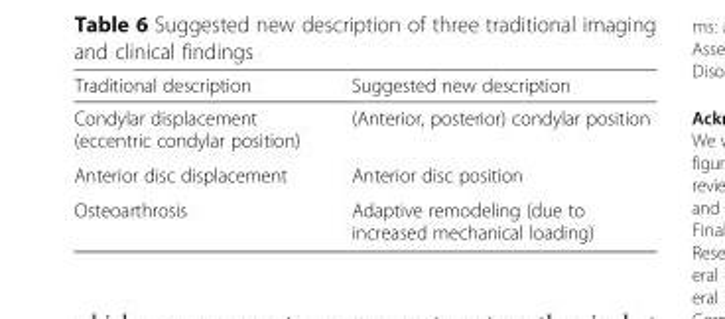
<table><thead><tr><td>Traditional description</td><td>Suggested new description</td></tr></thead><tbody><tr><td>Condylar displacement (eccentric condylar position)</td><td>(Anterior, posterior) condylar position</td></tr><tr><td>Anterior disc displacement</td><td>Anterior disc position</td></tr><tr><td>Osteoarthrosis</td><td>Adaptive remodeling (due to increased mechanical loading)</td></tr></tbody></table>